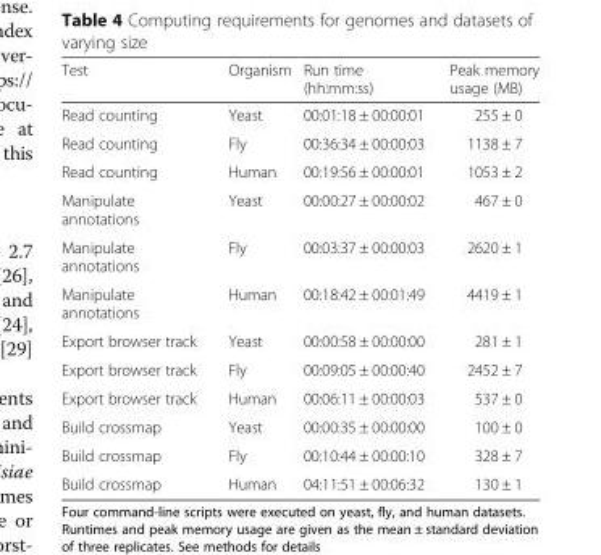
<table><thead><tr><td>Test</td><td>Organism</td><td>Run time (hh:mm:ss)</td><td>Peak memory usage (MB)</td></tr></thead><tbody><tr><td>Read counting</td><td>Yeast</td><td>00:01:18 ± 00:00:01</td><td>255 ± 0</td></tr><tr><td>Read counting</td><td>Fly</td><td>00:36:34 ± 00:00:03</td><td>1138 ± 7</td></tr><tr><td>Read counting</td><td>Human</td><td>00:19:56 ± 00:00:01</td><td>1053 ± 2</td></tr><tr><td>Manipulate annotations</td><td>Yeast</td><td>00:00:27 ± 00:00:02</td><td>467 ± 0</td></tr><tr><td>Manipulate annotations</td><td>Fly</td><td>00:03:37 ± 00:00:03</td><td>2620 ± 1</td></tr><tr><td>Manipulate annotations</td><td>Human</td><td>00:18:42 ± 00:01:49</td><td>4419 ± 1</td></tr><tr><td>Export browser track</td><td>Yeast</td><td>00:00:58 ± 00:00:00</td><td>281 ± 1</td></tr><tr><td>Export browser track</td><td>Fly</td><td>00:09:05 ± 00:00:40</td><td>2452 ± 7</td></tr><tr><td>Export browser track</td><td>Human</td><td>00:06:11 ± 00:00:03</td><td>537 ± 0</td></tr><tr><td>Build crossmap</td><td>Yeast</td><td>00:00:35 ± 00:00:00</td><td>100 ± 0</td></tr><tr><td>Build crossmap</td><td>Fly</td><td>00:10:44 ± 00:00:10</td><td>328 ± 7</td></tr><tr><td>Build crossmap</td><td>Human</td><td>04:11:51 ± 00:06:32</td><td>130 ± 1</td></tr></tbody></table>